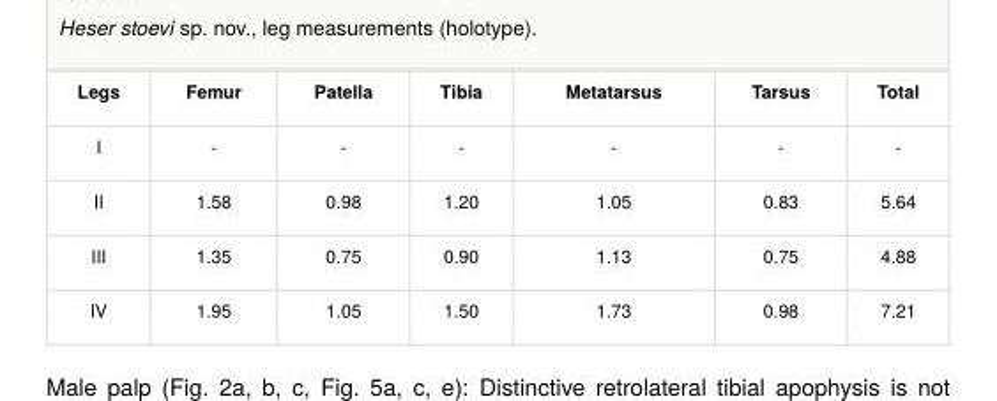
<table><tbody><tr><td>Legs</td><td>Femur</td><td>Patella</td><td>Tibia</td><td>Metatarsus</td><td>Tarsus</td><td>Total</td></tr><tr><td>I</td><td>-</td><td>-</td><td>-</td><td>-</td><td>-</td><td>-</td></tr><tr><td>II</td><td>1.58</td><td>0.98</td><td>1.20</td><td>1.05</td><td>0.83</td><td>5.64</td></tr><tr><td>III</td><td>1.35</td><td>0.75</td><td>0.90</td><td>1.13</td><td>0.75</td><td>4.88</td></tr><tr><td>IV</td><td>1.95</td><td>1.05</td><td>1.50</td><td>1.73</td><td>0.98</td><td>7.21</td></tr></tbody></table>